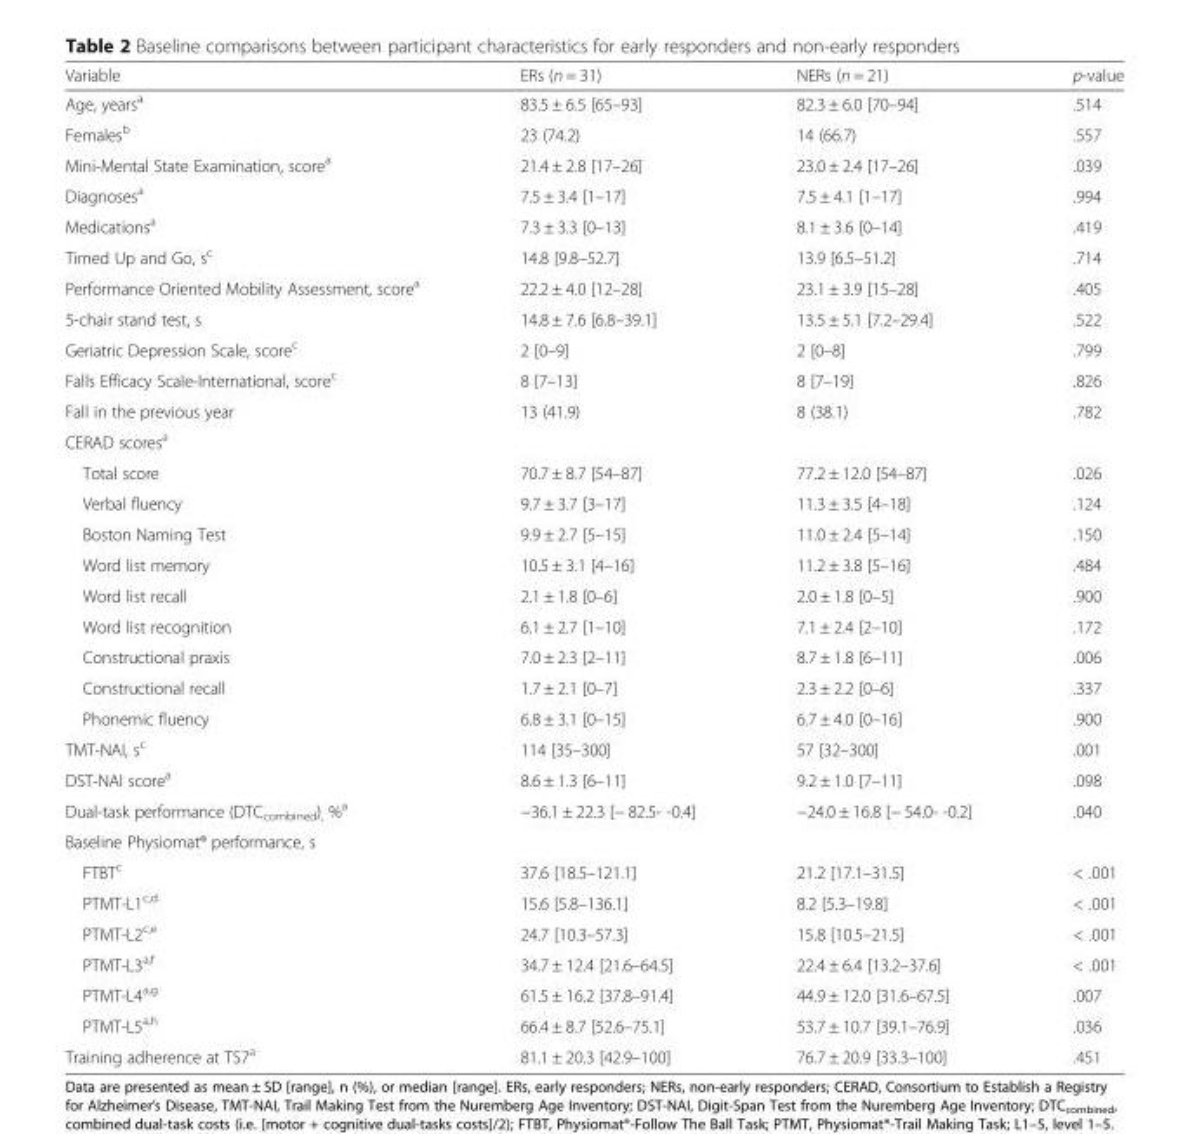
<table><thead><tr><td>Variable</td><td>ERs (n = 31)</td><td>NERs (n = 21)</td><td>p-value</td></tr></thead><tbody><tr><td>Age, years<sup>a</sup></td><td>83.5 ± 6.5 [65–93]</td><td>82.3 ± 6.0 [70–94]</td><td>.514</td></tr><tr><td>Females<sup>b</sup></td><td>23 (74.2)</td><td>14 (66.7)</td><td>.557</td></tr><tr><td>Mini-Mental State Examination, score<sup>a</sup></td><td>21.4 ± 2.8 [17–26]</td><td>23.0 ± 2.4 [17–26]</td><td>.039</td></tr><tr><td>Diagnoses<sup>a</sup></td><td>7.5 ± 3.4 [1–17]</td><td>7.5 ± 4.1 [1–17]</td><td>.994</td></tr><tr><td>Medications<sup>a</sup></td><td>7.3 ± 3.3 [0–13]</td><td>8.1 ± 3.6 [0–14]</td><td>.419</td></tr><tr><td>Timed Up and Go, s<sup>c</sup></td><td>14.8 [9.8–52.7]</td><td>13.9 [6.5–51.2]</td><td>.714</td></tr><tr><td>Performance Oriented Mobility Assessment, score<sup>a</sup></td><td>22.2 ± 4.0 [12–28]</td><td>23.1 ± 3.9 [15–28]</td><td>.405</td></tr><tr><td>5-chair stand test, s</td><td>14.8 ± 7.6 [6.8–39.1]</td><td>13.5 ± 5.1 [7.2–29.4]</td><td>.522</td></tr><tr><td>Geriatric Depression Scale, score<sup>c</sup></td><td>2 [0–9]</td><td>2 [0–8]</td><td>.799</td></tr><tr><td>Falls Efficacy Scale-International, score<sup>c</sup></td><td>8 [7–13]</td><td>8 [7–19]</td><td>.826</td></tr><tr><td>Fall in the previous year</td><td>13 (41.9)</td><td>8 (38.1)</td><td>.782</td></tr><tr><td colspan="4">CERAD scores<sup>a</sup></td></tr><tr><td>Total score</td><td>70.7 ± 8.7 [54–87]</td><td>77.2 ± 12.0 [54–87]</td><td>.026</td></tr><tr><td>Verbal fluency</td><td>9.7 ± 3.7 [3–17]</td><td>11.3 ± 3.5 [4–18]</td><td>.124</td></tr><tr><td>Boston Naming Test</td><td>9.9 ± 2.7 [5–15]</td><td>11.0 ± 2.4 [5–14]</td><td>.150</td></tr><tr><td>Word list memory</td><td>10.5 ± 3.1 [4–16]</td><td>11.2 ± 3.8 [5–16]</td><td>.484</td></tr><tr><td>Word list recall</td><td>2.1 ± 1.8 [0–6]</td><td>2.0 ± 1.8 [0–5]</td><td>.900</td></tr><tr><td>Word list recognition</td><td>6.1 ± 2.7 [1–10]</td><td>7.1 ± 2.4 [2–10]</td><td>.172</td></tr><tr><td>Constructional praxis</td><td>7.0 ± 2.3 [2–11]</td><td>8.7 ± 1.8 [6–11]</td><td>.006</td></tr><tr><td>Constructional recall</td><td>1.7 ± 2.1 [0–7]</td><td>2.3 ± 2.2 [0–6]</td><td>.337</td></tr><tr><td>Phonemic fluency</td><td>6.8 ± 3.1 [0–15]</td><td>6.7 ± 4.0 [0–16]</td><td>.900</td></tr><tr><td>TMT-NAI, s<sup>c</sup></td><td>114 [35–300]</td><td>57 [32–300]</td><td>.001</td></tr><tr><td>DST-NAI score<sup>a</sup></td><td>8.6 ± 1.3 [6–11]</td><td>9.2 ± 1.0 [7–11]</td><td>.098</td></tr><tr><td>Dual-task performance (DTC<sub>combined</sub>)<sub>,</sub> %<sup>a</sup></td><td>−36.1 ± 22.3 [− 82.5- -0.4]</td><td>−24.0 ± 16.8 [− 54.0- -0.2]</td><td>.040</td></tr><tr><td colspan="4">Baseline Physiomat® performance, s</td></tr><tr><td>FTBT<sup>c</sup></td><td>37.6 [18.5–121.1]</td><td>21.2 [17.1–31.5]</td><td>&lt; .001</td></tr><tr><td>PTMT-L1<sup>c,d</sup></td><td>15.6 [5.8–136.1]</td><td>8.2 [5.3–19.8]</td><td>&lt; .001</td></tr><tr><td>PTMT-L2<sup>c,e</sup></td><td>24.7 [10.3–57.3]</td><td>15.8 [10.5–21.5]</td><td>&lt; .001</td></tr><tr><td>PTMT-L3<sup>a,f</sup></td><td>34.7 ± 12.4 [21.6–64.5]</td><td>22.4 ± 6.4 [13.2–37.6]</td><td>&lt; .001</td></tr><tr><td>PTMT-L4<sup>a,g</sup></td><td>61.5 ± 16.2 [37.8–91.4]</td><td>44.9 ± 12.0 [31.6–67.5]</td><td>.007</td></tr><tr><td>PTMT-L5<sup>a,h</sup></td><td>66.4 ± 8.7 [52.6–75.1]</td><td>53.7 ± 10.7 [39.1–76.9]</td><td>.036</td></tr><tr><td>Training adherence at TS7<sup>a</sup></td><td>81.1 ± 20.3 [42.9–100]</td><td>76.7 ± 20.9 [33.3–100]</td><td>.451</td></tr></tbody></table>